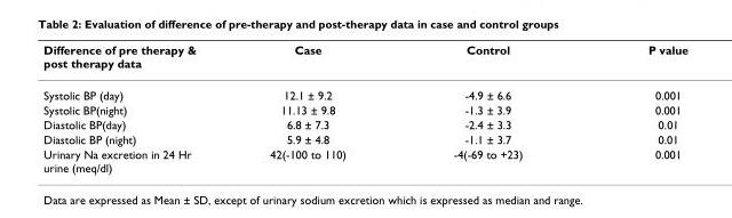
<table><thead><tr><td>Difference of pre therapy &amp; post therapy data</td><td>Case</td><td>Control</td><td>P value</td></tr></thead><tbody><tr><td>Systolic BP (day)</td><td>12.1 ± 9.2</td><td>-4.9 ± 6.6</td><td>0.001</td></tr><tr><td>Systolic BP(night)</td><td>11.13 ± 9.8</td><td>-1.3 ± 3.9</td><td>0.001</td></tr><tr><td>Diastolic BP(day)</td><td>6.8 ± 7.3</td><td>-2.4 ± 3.3</td><td>0.01</td></tr><tr><td>Diastolic BP (night)</td><td>5.9 ± 4.8</td><td>-1.1 ± 3.7</td><td>0.01</td></tr><tr><td>Urinary Na excretion in 24 Hr urine (meq/dl)</td><td>42(-100 to 110)</td><td>-4(-69 to +23)</td><td>0.001</td></tr></tbody></table>